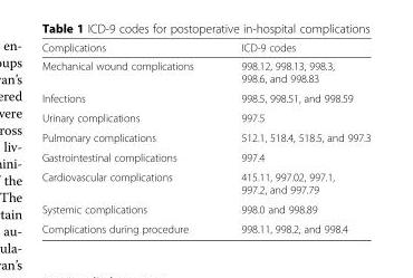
<table><thead><tr><td>Complications</td><td>ICD-9 codes</td></tr></thead><tbody><tr><td>Mechanical wound complications</td><td>998.12, 998.13, 998.3, 998.6, and 998.83</td></tr><tr><td>Infections</td><td>998.5, 998.51, and 998.59</td></tr><tr><td>Urinary complications</td><td>997.5</td></tr><tr><td>Pulmonary complications</td><td>512.1, 518.4, 518.5, and 997.3</td></tr><tr><td>Gastrointestinal complications</td><td>997.4</td></tr><tr><td>Cardiovascular complications</td><td>415.11, 997.02, 997.1, 997.2, and 997.79</td></tr><tr><td>Systemic complications</td><td>998.0 and 998.89</td></tr><tr><td>Complications during procedure</td><td>998.11, 998.2, and 998.4</td></tr></tbody></table>